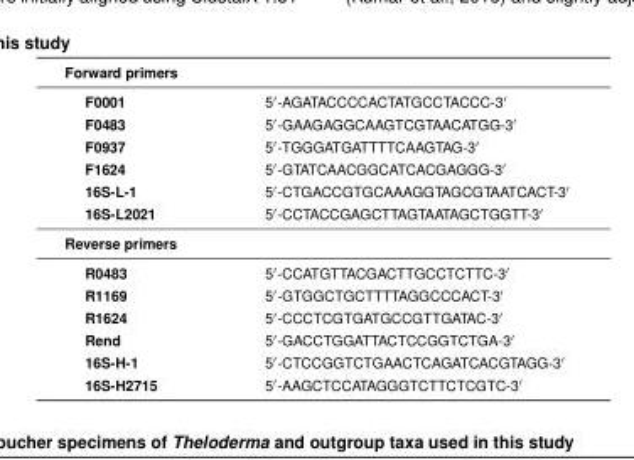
<table><tbody><tr><td colspan="2">Forward primers</td></tr><tr><td>F0001</td><td>5′-AGATACCCCACTATGCCTACCC-3′</td></tr><tr><td>F0483</td><td>5′-GAAGAGGCAAGTCGTAACATGG-3′</td></tr><tr><td>F0937</td><td>5′-TGGGATGATTTTCAAGTAG-3′</td></tr><tr><td>F1624</td><td>5′-GTATCAACGGCATCACGAGGG-3′</td></tr><tr><td>16S-L-1</td><td>5′-CTGACCGTGCAAAGGTAGCGTAATCACT-3′</td></tr><tr><td>16S-L2021</td><td>5′-CCTACCGAGCTTAGTAATAGCTGGTT-3′</td></tr><tr><td colspan="2">Reverse primers</td></tr><tr><td>R0483</td><td>5′-CCATGTTACGACTTGCCTCTTC-3′</td></tr><tr><td>R1169</td><td>5′-GTGGCTGCTTTTAGGCCCACT-3′</td></tr><tr><td>R1624</td><td>5′-CCCTCGTGATGCCGTTGATAC-3′</td></tr><tr><td>Rend</td><td>5′-GACCTGGATTACTCCGGTCTGA-3′</td></tr><tr><td>16S-H-1</td><td>5′-CTCCGGTCTGAACTCAGATCACGTAGG-3′</td></tr><tr><td>16S-H2715</td><td>5′-AAGCTCCATAGGGTCTTCTCGTC-3′</td></tr></tbody></table>